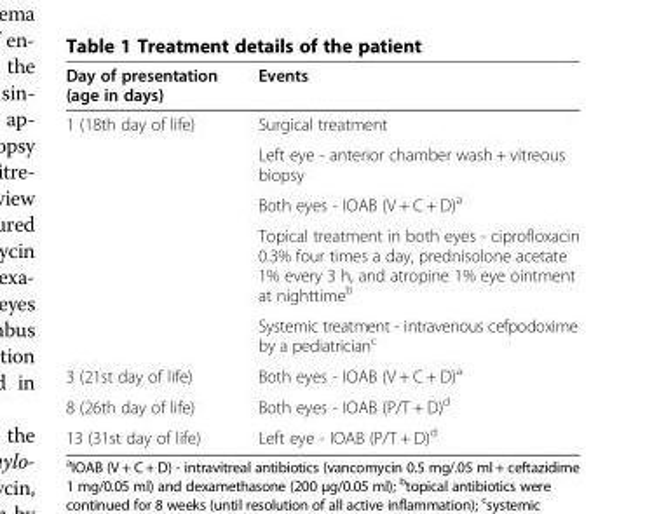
<table><thead><tr><td>Day of presentation (age in days)</td><td>Events</td></tr></thead><tbody><tr><td rowspan="5">1 (18th day of life)</td><td>Surgical treatment</td></tr><tr><td>Left eye - anterior chamber wash + vitreous biopsy</td></tr><tr><td>Both eyes - IOAB (V + C + D)<sup>a</sup></td></tr><tr><td>Topical treatment in both eyes - ciprofloxacin 0.3% four times a day, prednisolone acetate 1% every 3 h, and atropine 1% eye ointment at nighttime<sup>b</sup></td></tr><tr><td>Systemic treatment - intravenous cefpodoxime by a pediatrician<sup>c</sup></td></tr><tr><td>3 (21st day of life)</td><td>Both eyes - IOAB (V + C + D)<sup>a</sup></td></tr><tr><td>8 (26th day of life)</td><td>Both eyes - IOAB (P/T + D)<sup>d</sup></td></tr><tr><td>13 (31st day of life)</td><td>Left eye - IOAB (P/T + D)<sup>d</sup></td></tr></tbody></table>